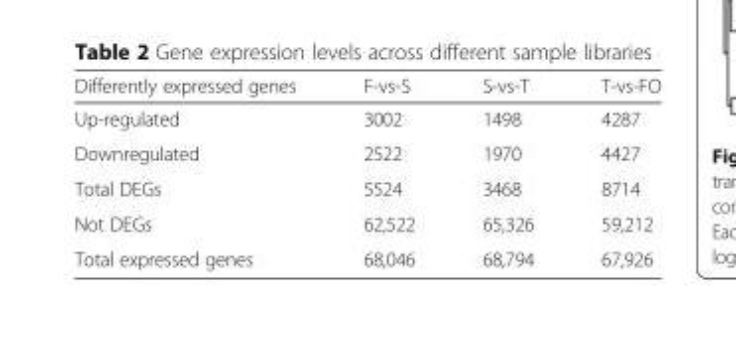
<table><thead><tr><td>Differently expressed genes</td><td>F-vs-S</td><td>S-vs-T</td><td>T-vs-FO</td></tr></thead><tbody><tr><td>Up-regulated</td><td>3002</td><td>1498</td><td>4287</td></tr><tr><td>Downregulated</td><td>2522</td><td>1970</td><td>4427</td></tr><tr><td>Total DEGs</td><td>5524</td><td>3468</td><td>8714</td></tr><tr><td>Not DEGs</td><td>62,522</td><td>65,326</td><td>59,212</td></tr><tr><td>Total expressed genes</td><td>68,046</td><td>68,794</td><td>67,926</td></tr></tbody></table>